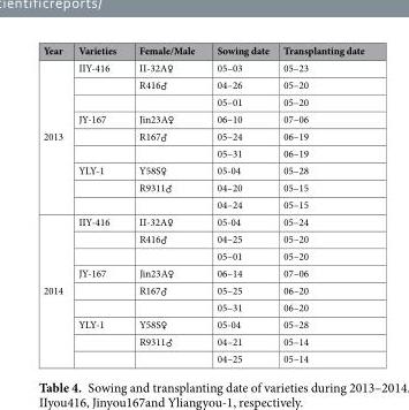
<table><thead><tr><td>Year</td><td>Varieties</td><td>Female/Male</td><td>Sowing date</td><td>Transplanting date</td></tr></thead><tbody><tr><td rowspan="9">2013</td><td>IIY-416</td><td>II-32A♀</td><td>05–03</td><td>05–23</td></tr><tr><td></td><td>R416♂</td><td>04–26</td><td>05–20</td></tr><tr><td></td><td></td><td>05–01</td><td>05–20</td></tr><tr><td>JY-167</td><td>Jin23A♀</td><td>06–10</td><td>07–06</td></tr><tr><td></td><td>R167♂</td><td>05–24</td><td>06–19</td></tr><tr><td></td><td></td><td>05–31</td><td>06–19</td></tr><tr><td>YLY-1</td><td>Y58S♀</td><td>05-04</td><td>05–28</td></tr><tr><td></td><td>R9311♂</td><td>04–20</td><td>05–15</td></tr><tr><td></td><td></td><td>04–24</td><td>05–15</td></tr><tr><td rowspan="9">2014</td><td>IIY-416</td><td>II-32A♀</td><td>05-04</td><td>05–24</td></tr><tr><td></td><td>R416♂</td><td>04–25</td><td>05–20</td></tr><tr><td></td><td></td><td>05–01</td><td>05–20</td></tr><tr><td>JY-167</td><td>Jin23A♀</td><td>06–14</td><td>07–06</td></tr><tr><td></td><td>R167♂</td><td>05–25</td><td>06–20</td></tr><tr><td></td><td></td><td>05–31</td><td>06–20</td></tr><tr><td>YLY-1</td><td>Y58S♀</td><td>05-04</td><td>05–28</td></tr><tr><td></td><td>R9311♂</td><td>04–21</td><td>05–14</td></tr><tr><td></td><td></td><td>04–25</td><td>05–14</td></tr></tbody></table>